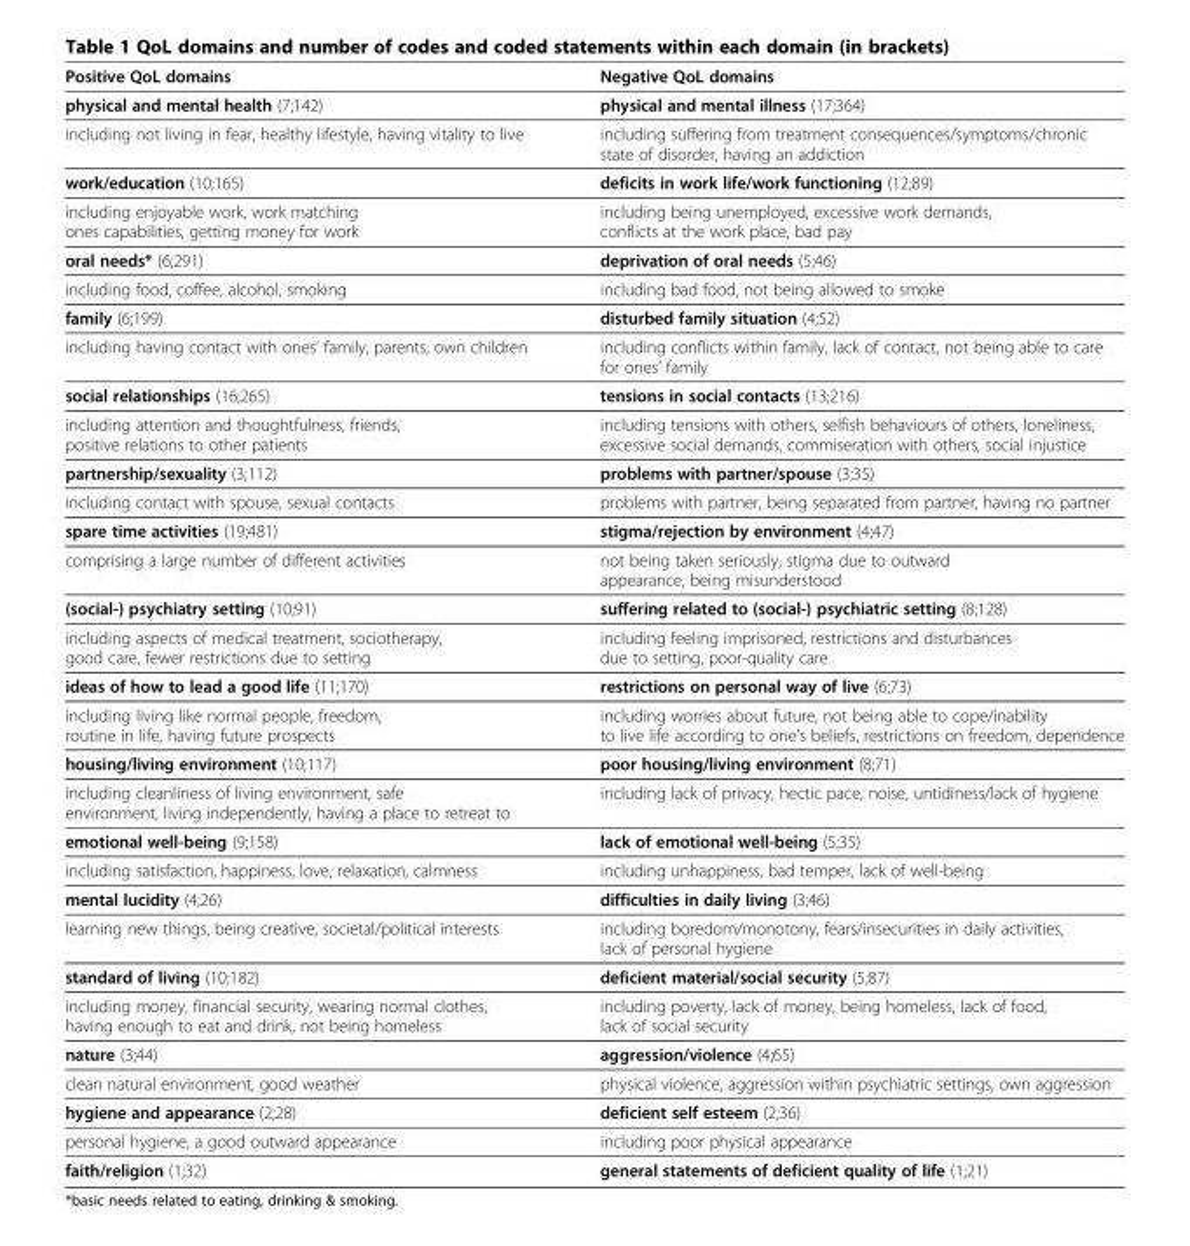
<table><thead><tr><td>Positive QoL domains</td><td>Negative QoL domains</td></tr></thead><tbody><tr><td>physical and mental health (7;142)</td><td>physical and mental illness (17;364)</td></tr><tr><td>including not living in fear, healthy lifestyle, having vitality to live</td><td>including suffering from treatment consequences/symptoms/chronic state of disorder, having an addiction</td></tr><tr><td>work/education (10;165)</td><td>deficits in work life/work functioning (12;89)</td></tr><tr><td>including enjoyable work, work matching ones capabilities, getting money for work</td><td>including being unemployed, excessive work demands, conflicts at the work place, bad pay</td></tr><tr><td>oral needs* (6;291)</td><td>deprivation of oral needs (5;46)</td></tr><tr><td>including food, coffee, alcohol, smoking</td><td>including bad food, not being allowed to smoke</td></tr><tr><td>family (6;199)</td><td>disturbed family situation (4;52)</td></tr><tr><td>including having contact with ones’ family, parents, own children</td><td>including conflicts within family, lack of contact, not being able to care for ones’ family</td></tr><tr><td>social relationships (16;265)</td><td>tensions in social contacts (13;216)</td></tr><tr><td>including attention and thoughtfulness, friends, positive relations to other patients</td><td>including tensions with others, selfish behaviours of others, loneliness, excessive social demands, commiseration with others, social injustice</td></tr><tr><td>partnership/sexuality (3;112)</td><td>problems with partner/spouse (3;35)</td></tr><tr><td>including contact with spouse, sexual contacts</td><td>problems with partner, being separated from partner, having no partner</td></tr><tr><td>spare time activities (19;481)</td><td>stigma/rejection by environment (4;47)</td></tr><tr><td>comprising a large number of different activities</td><td>not being taken seriously, stigma due to outward appearance, being misunderstood</td></tr><tr><td>(social-) psychiatry setting (10;91)</td><td>suffering related to (social-) psychiatric setting (8;128)</td></tr><tr><td>including aspects of medical treatment, sociotherapy, good care, fewer restrictions due to setting</td><td>including feeling imprisoned, restrictions and disturbances due to setting, poor-quality care</td></tr><tr><td>ideas of how to lead a good life (11;170)</td><td>restrictions on personal way of live (6;73)</td></tr><tr><td>including living like normal people, freedom, routine in life, having future prospects</td><td>including worries about future, not being able to cope/inability to live life according to one’s beliefs, restrictions on freedom, dependence</td></tr><tr><td>housing/living environment (10;117)</td><td>poor housing/living environment (8;71)</td></tr><tr><td>including cleanliness of living environment, safe environment, living independently, having a place to retreat to</td><td>including lack of privacy, hectic pace, noise, untidiness/lack of hygiene</td></tr><tr><td>emotional well-being (9;158)</td><td>lack of emotional well-being (5;35)</td></tr><tr><td>including satisfaction, happiness, love, relaxation, calmness</td><td>including unhappiness, bad temper, lack of well-being</td></tr><tr><td>mental lucidity (4;26)</td><td>difficulties in daily living (3;46)</td></tr><tr><td>learning new things, being creative, societal/political interests</td><td>including boredom/monotony, fears/insecurities in daily activities, lack of personal hygiene</td></tr><tr><td>standard of living (10;182)</td><td>deficient material/social security (5;87)</td></tr><tr><td>including money, financial security, wearing normal clothes, having enough to eat and drink, not being homeless</td><td>including poverty, lack of money, being homeless, lack of food, lack of social security</td></tr><tr><td>nature (3;44)</td><td>aggression/violence (4;65)</td></tr><tr><td>clean natural environment, good weather</td><td>physical violence, aggression within psychiatric settings, own aggression</td></tr><tr><td>hygiene and appearance (2;28)</td><td>deficient self esteem (2;36)</td></tr><tr><td>personal hygiene, a good outward appearance</td><td>including poor physical appearance</td></tr><tr><td>faith/religion (1;32)</td><td>general statements of deficient quality of life (1;21)</td></tr></tbody></table>